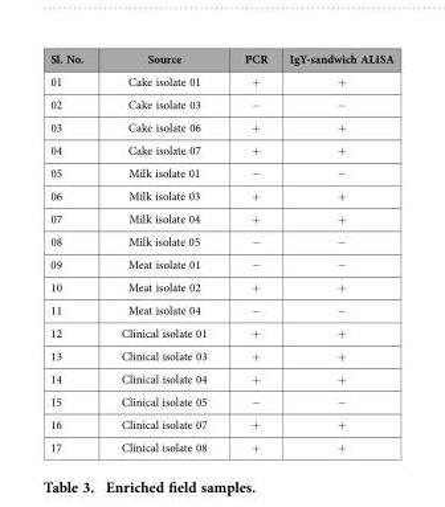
<table><thead><tr><td>Sl. No.</td><td>Source</td><td>PCR</td><td>IgY-sandwich ALISA</td></tr></thead><tbody><tr><td>01</td><td>Cake isolate 01</td><td>+</td><td>+</td></tr><tr><td>02</td><td>Cake isolate 03</td><td>−</td><td>−</td></tr><tr><td>03</td><td>Cake isolate 06</td><td>+</td><td>+</td></tr><tr><td>04</td><td>Cake isolate 07</td><td>+</td><td>+</td></tr><tr><td>05</td><td>Milk isolate 01</td><td>−</td><td>−</td></tr><tr><td>06</td><td>Milk isolate 03</td><td>+</td><td>+</td></tr><tr><td>07</td><td>Milk isolate 04</td><td>+</td><td>+</td></tr><tr><td>08</td><td>Milk isolate 05</td><td>−</td><td>−</td></tr><tr><td>09</td><td>Meat isolate 01</td><td>−</td><td>−</td></tr><tr><td>10</td><td>Meat isolate 02</td><td>+</td><td>+</td></tr><tr><td>11</td><td>Meat isolate 04</td><td>−</td><td>−</td></tr><tr><td>12</td><td>Clinical isolate 01</td><td>+</td><td>+</td></tr><tr><td>13</td><td>Clinical isolate 03</td><td>+</td><td>+</td></tr><tr><td>14</td><td>Clinical isolate 04</td><td>+</td><td>+</td></tr><tr><td>15</td><td>Clinical isolate 05</td><td>−</td><td>−</td></tr><tr><td>16</td><td>Clinical isolate 07</td><td>+</td><td>+</td></tr><tr><td>17</td><td>Clinical isolate 08</td><td>+</td><td>+</td></tr></tbody></table>